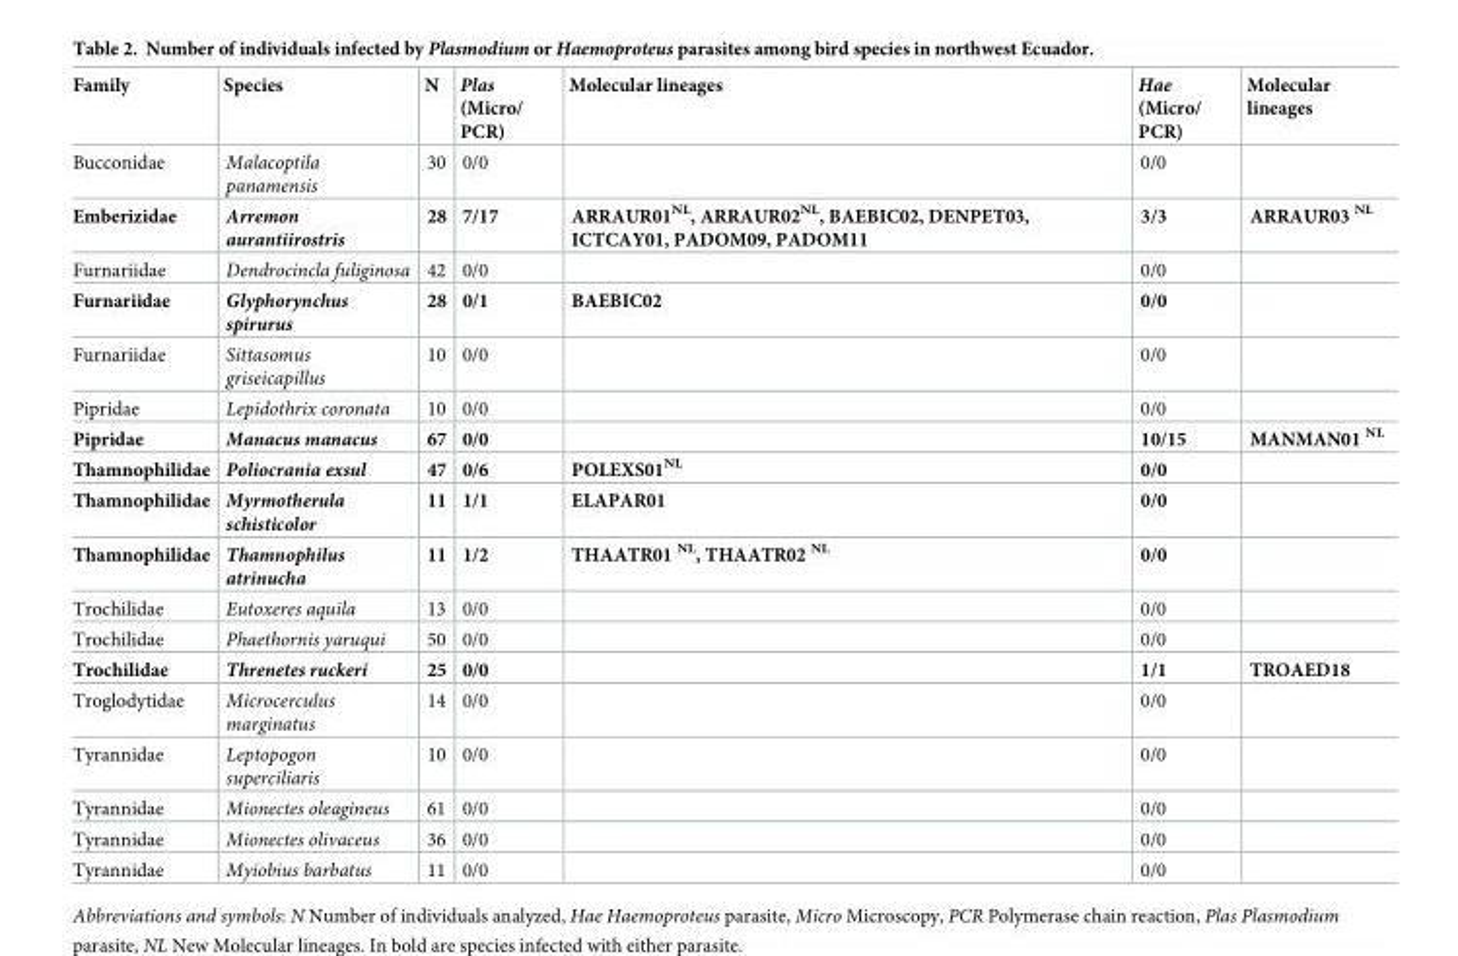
<table><thead><tr><td>Family</td><td>Species</td><td>N</td><td>Plas (Micro/ PCR)</td><td>Molecular lineages</td><td>Hae (Micro/ PCR)</td><td>Molecular lineages</td></tr></thead><tbody><tr><td>Bucconidae</td><td>Malacoptila panamensis</td><td>30</td><td>0/0</td><td></td><td>0/0</td><td></td></tr><tr><td>Emberizidae</td><td>Arremon aurantiirostris</td><td>28</td><td>7/17</td><td>ARRAUR01<sup>NL</sup>, ARRAUR02<sup>NL</sup>, BAEBIC02, DENPET03, ICTCAY01, PADOM09, PADOM11</td><td>3/3</td><td>ARRAUR03 <sup>NL</sup></td></tr><tr><td>Furnariidae</td><td>Dendrocincla fuliginosa</td><td>42</td><td>0/0</td><td></td><td>0/0</td><td></td></tr><tr><td>Furnariidae</td><td>Glyphorynchus spirurus</td><td>28</td><td>0/1</td><td>BAEBIC02</td><td>0/0</td><td></td></tr><tr><td>Furnariidae</td><td>Sittasomus griseicapillus</td><td>10</td><td>0/0</td><td></td><td>0/0</td><td></td></tr><tr><td>Pipridae</td><td>Lepidothrix coronata</td><td>10</td><td>0/0</td><td></td><td>0/0</td><td></td></tr><tr><td>Pipridae</td><td>Manacus manacus</td><td>67</td><td>0/0</td><td></td><td>10/15</td><td>MANMAN01 <sup>NL</sup></td></tr><tr><td>Thamnophilidae</td><td>Poliocrania exsul</td><td>47</td><td>0/6</td><td>POLEXS01<sup>NL</sup></td><td>0/0</td><td></td></tr><tr><td>Thamnophilidae</td><td>Myrmotherula schisticolor</td><td>11</td><td>1/1</td><td>ELAPAR01</td><td>0/0</td><td></td></tr><tr><td>Thamnophilidae</td><td>Thamnophilus atrinucha</td><td>11</td><td>1/2</td><td>THAATR01 <sup>NL</sup>, THAATR02 <sup>NL</sup></td><td>0/0</td><td></td></tr><tr><td>Trochilidae</td><td>Eutoxeres aquila</td><td>13</td><td>0/0</td><td></td><td>0/0</td><td></td></tr><tr><td>Trochilidae</td><td>Phaethornis yaruqui</td><td>50</td><td>0/0</td><td></td><td>0/0</td><td></td></tr><tr><td>Trochilidae</td><td>Threnetes ruckeri</td><td>25</td><td>0/0</td><td></td><td>1/1</td><td>TROAED18</td></tr><tr><td>Troglodytidae</td><td>Microcerculus marginatus</td><td>14</td><td>0/0</td><td></td><td>0/0</td><td></td></tr><tr><td>Tyrannidae</td><td>Leptopogon superciliaris</td><td>10</td><td>0/0</td><td></td><td>0/0</td><td></td></tr><tr><td>Tyrannidae</td><td>Mionectes oleagineus</td><td>61</td><td>0/0</td><td></td><td>0/0</td><td></td></tr><tr><td>Tyrannidae</td><td>Mionectes olivaceus</td><td>36</td><td>0/0</td><td></td><td>0/0</td><td></td></tr><tr><td>Tyrannidae</td><td>Myiobius barbatus</td><td>11</td><td>0/0</td><td></td><td>0/0</td><td></td></tr></tbody></table>